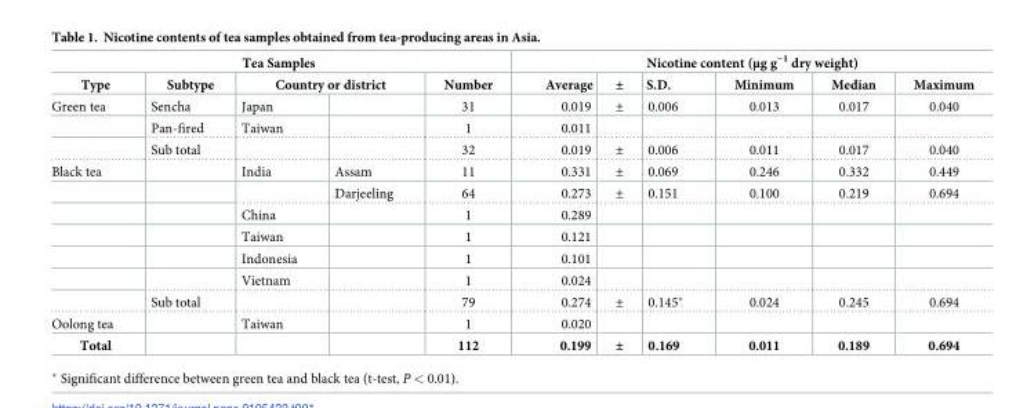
<table><thead><tr><td colspan="5">Tea Samples</td><td colspan="6">Nicotine content (μg g<sup>−1</sup> dry weight)</td></tr><tr><td rowspan="2">Type Green tea</td><td rowspan="2">Subtype Sencha</td><td colspan="2">Country or district</td><td rowspan="2">Number 31</td><td rowspan="2">Average 0.019</td><td rowspan="2">± ±</td><td rowspan="2">S.D. 0.006</td><td rowspan="2">Minimum 0.013</td><td rowspan="2">Median 0.017</td><td rowspan="2">Maximum 0.040</td></tr><tr><td>Japan</td><td></td></tr></thead><tbody><tr><td></td><td>Pan-fired</td><td>Taiwan</td><td></td><td>1</td><td>0.011</td><td></td><td></td><td></td><td></td><td></td></tr><tr><td></td><td>Sub total</td><td></td><td></td><td>32</td><td>0.019</td><td>±</td><td>0.006</td><td>0.011</td><td>0.017</td><td>0.040</td></tr><tr><td rowspan="7">Black tea</td><td></td><td>India</td><td>Assam</td><td>11</td><td>0.331</td><td>±</td><td>0.069</td><td>0.246</td><td>0.332</td><td>0.449</td></tr><tr><td></td><td></td><td>Darjeeling</td><td>64</td><td>0.273</td><td>±</td><td>0.151</td><td>0.100</td><td>0.219</td><td>0.694</td></tr><tr><td></td><td>China</td><td></td><td>1</td><td>0.289</td><td></td><td></td><td></td><td></td><td></td></tr><tr><td></td><td>Taiwan</td><td></td><td>1</td><td>0.121</td><td></td><td></td><td></td><td></td><td></td></tr><tr><td></td><td>Indonesia</td><td></td><td>1</td><td>0.101</td><td></td><td></td><td></td><td></td><td></td></tr><tr><td></td><td>Vietnam</td><td></td><td>1</td><td>0.024</td><td></td><td></td><td></td><td></td><td></td></tr><tr><td>Sub total</td><td></td><td></td><td>79</td><td>0.274</td><td>±</td><td>0.145*</td><td>0.024</td><td>0.245</td><td>0.694</td></tr><tr><td>Oolong tea</td><td></td><td>Taiwan</td><td></td><td>1</td><td>0.020</td><td></td><td></td><td></td><td></td><td></td></tr><tr><td>Total</td><td></td><td></td><td></td><td>112</td><td>0.199</td><td>±</td><td>0.169</td><td>0.011</td><td>0.189</td><td>0.694</td></tr></tbody></table>